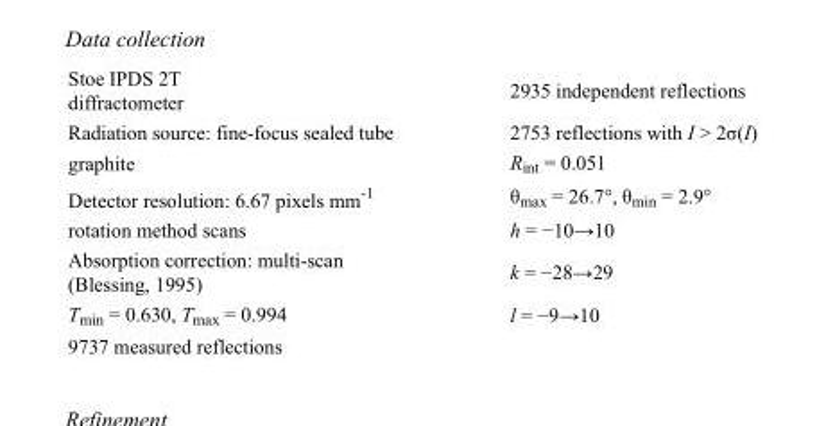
<table><tbody><tr><td>Stoe IPDS 2T diffractometer</td><td>2935 independent reflections</td></tr><tr><td>Radiation source: fine-focus sealed tube</td><td>2753 reflections with I &gt; 2σ(I)</td></tr><tr><td>graphite</td><td>R<sub>int</sub> = 0.051</td></tr><tr><td>Detector resolution: 6.67 pixels mm<sup>-1</sup></td><td>θ<sub>max</sub> = 26.7°, θ<sub>min</sub> = 2.9°</td></tr><tr><td>rotation method scans</td><td>h = −10→10</td></tr><tr><td>Absorption correction: multi-scan (Blessing, 1995)</td><td>k = −28→29</td></tr><tr><td>T<sub>min</sub> = 0.630, T<sub>max</sub> = 0.994</td><td>l = −9→10</td></tr><tr><td>9737 measured reflections</td><td></td></tr></tbody></table>